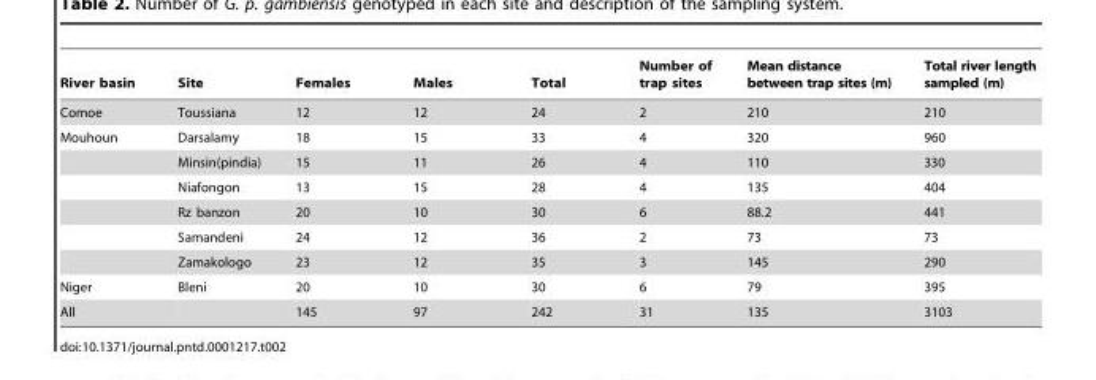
<table><thead><tr><td>River basin</td><td>Site</td><td>Females</td><td>Males</td><td>Total</td><td>Number of trap sites</td><td>Mean distance between trap sites (m)</td><td>Total river length sampled (m)</td></tr></thead><tbody><tr><td>Comoe</td><td>Toussiana</td><td>12</td><td>12</td><td>24</td><td>2</td><td>210</td><td>210</td></tr><tr><td rowspan="6">Mouhoun</td><td>Darsalamy</td><td>18</td><td>15</td><td>33</td><td>4</td><td>320</td><td>960</td></tr><tr><td>Minsin(pindia)</td><td>15</td><td>11</td><td>26</td><td>4</td><td>110</td><td>330</td></tr><tr><td>Niafongon</td><td>13</td><td>15</td><td>28</td><td>4</td><td>135</td><td>404</td></tr><tr><td>Rz banzon</td><td>20</td><td>10</td><td>30</td><td>6</td><td>88.2</td><td>441</td></tr><tr><td>Samandeni</td><td>24</td><td>12</td><td>36</td><td>2</td><td>73</td><td>73</td></tr><tr><td>Zamakologo</td><td>23</td><td>12</td><td>35</td><td>3</td><td>145</td><td>290</td></tr><tr><td>Niger</td><td>Bleni</td><td>20</td><td>10</td><td>30</td><td>6</td><td>79</td><td>395</td></tr><tr><td>All</td><td></td><td>145</td><td>97</td><td>242</td><td>31</td><td>135</td><td>3103</td></tr></tbody></table>